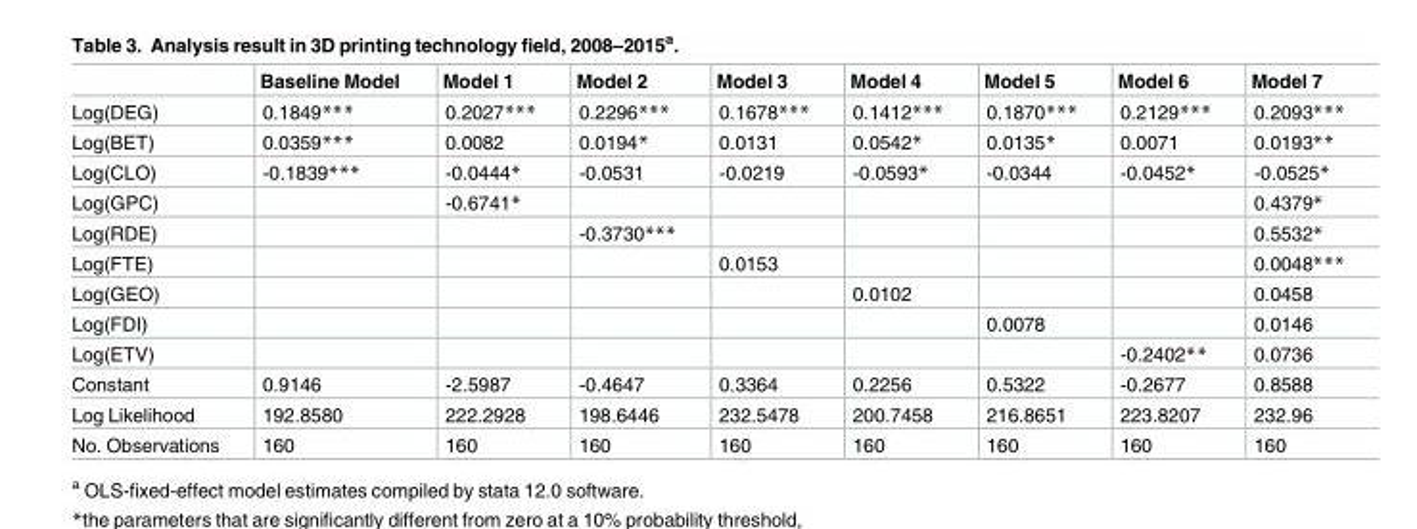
<table><thead><tr><td></td><td>Baseline Model</td><td>Model 1</td><td>Model 2</td><td>Model 3</td><td>Model 4</td><td>Model 5</td><td>Model 6</td><td>Model 7</td></tr></thead><tbody><tr><td>Log(DEG)</td><td>0.1849***</td><td>0.2027***</td><td>0.2296***</td><td>0.1678***</td><td>0.1412***</td><td>0.1870***</td><td>0.2129***</td><td>0.2093***</td></tr><tr><td>Log(BET)</td><td>0.0359***</td><td>0.0082</td><td>0.0194*</td><td>0.0131</td><td>0.0542*</td><td>0.0135*</td><td>0.0071</td><td>0.0193**</td></tr><tr><td>Log(CLO)</td><td>-0.1839***</td><td>-0.0444*</td><td>-0.0531</td><td>-0.0219</td><td>-0.0593*</td><td>-0.0344</td><td>-0.0452*</td><td>-0.0525*</td></tr><tr><td>Log(GPC)</td><td></td><td>-0.6741*</td><td></td><td></td><td></td><td></td><td></td><td>0.4379*</td></tr><tr><td>Log(RDE)</td><td></td><td></td><td>-0.3730***</td><td></td><td></td><td></td><td></td><td>0.5532*</td></tr><tr><td>Log(FTE)</td><td></td><td></td><td></td><td>0.0153</td><td></td><td></td><td></td><td>0.0048***</td></tr><tr><td>Log(GEO)</td><td></td><td></td><td></td><td></td><td>0.0102</td><td></td><td></td><td>0.0458</td></tr><tr><td>Log(FDI)</td><td></td><td></td><td></td><td></td><td></td><td>0.0078</td><td></td><td>0.0146</td></tr><tr><td>Log(ETV)</td><td></td><td></td><td></td><td></td><td></td><td></td><td>-0.2402**</td><td>0.0736</td></tr><tr><td>Constant</td><td>0.9146</td><td>-2.5987</td><td>-0.4647</td><td>0.3364</td><td>0.2256</td><td>0.5322</td><td>-0.2677</td><td>0.8588</td></tr><tr><td>Log Likelihood</td><td>192.8580</td><td>222.2928</td><td>198.6446</td><td>232.5478</td><td>200.7458</td><td>216.8651</td><td>223.8207</td><td>232.96</td></tr><tr><td>No. Observations</td><td>160</td><td>160</td><td>160</td><td>160</td><td>160</td><td>160</td><td>160</td><td>160</td></tr></tbody></table>